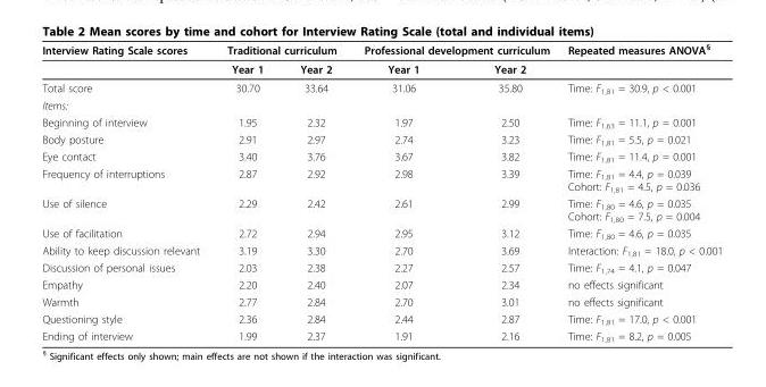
<table><thead><tr><td rowspan="2">Interview Rating Scale scores</td><td colspan="2">Traditional curriculum</td><td colspan="2">Professional development curriculum</td><td rowspan="2">Repeated measures ANOVA<sup>§</sup></td></tr><tr><td>Year 1</td><td>Year 2</td><td>Year 1</td><td>Year 2</td></tr></thead><tbody><tr><td>Total score</td><td>30.70</td><td>33.64</td><td>31.06</td><td>35.80</td><td>Time: F<sub>1,81</sub> = 30.9, p &lt; 0.001</td></tr><tr><td colspan="6">Items:</td></tr><tr><td>Beginning of interview</td><td>1.95</td><td>2.32</td><td>1.97</td><td>2.50</td><td>Time: F<sub>1,63</sub> = 11.1, p = 0.001</td></tr><tr><td>Body posture</td><td>2.91</td><td>2.97</td><td>2.74</td><td>3.23</td><td>Time: F<sub>1,81</sub> = 5.5, p = 0.021</td></tr><tr><td>Eye contact</td><td>3.40</td><td>3.76</td><td>3.67</td><td>3.82</td><td>Time: F<sub>1,81</sub> = 11.4, p = 0.001</td></tr><tr><td>Frequency of interruptions</td><td>2.87</td><td>2.92</td><td>2.98</td><td>3.39</td><td>Time: F<sub>1,81</sub> = 4.4, p = 0.039 Cohort: F<sub>1,81</sub> = 4.5, p = 0.036</td></tr><tr><td>Use of silence</td><td>2.29</td><td>2.42</td><td>2.61</td><td>2.99</td><td>Time: F<sub>1,80</sub> = 4.6, p = 0.035 Cohort: F<sub>1,80</sub> = 7.5, p = 0.004</td></tr><tr><td>Use of facilitation</td><td>2.72</td><td>2.94</td><td>2.95</td><td>3.12</td><td>Time: F<sub>1,80</sub> = 4.6, p = 0.035</td></tr><tr><td>Ability to keep discussion relevant</td><td>3.19</td><td>3.30</td><td>2.70</td><td>3.69</td><td>Interaction: F<sub>1,81</sub> = 18.0, p &lt; 0.001</td></tr><tr><td>Discussion of personal issues</td><td>2.03</td><td>2.38</td><td>2.27</td><td>2.57</td><td>Time: F<sub>1,74</sub> = 4.1, p = 0.047</td></tr><tr><td>Empathy</td><td>2.20</td><td>2.40</td><td>2.07</td><td>2.34</td><td>no effects significant</td></tr><tr><td>Warmth</td><td>2.77</td><td>2.84</td><td>2.70</td><td>3.01</td><td>no effects significant</td></tr><tr><td>Questioning style</td><td>2.36</td><td>2.84</td><td>2.44</td><td>2.87</td><td>Time: F<sub>1,81</sub> = 17.0, p &lt; 0.001</td></tr><tr><td>Ending of interview</td><td>1.99</td><td>2.37</td><td>1.91</td><td>2.16</td><td>Time: F<sub>1,81</sub> = 8.2, p = 0.005</td></tr></tbody></table>